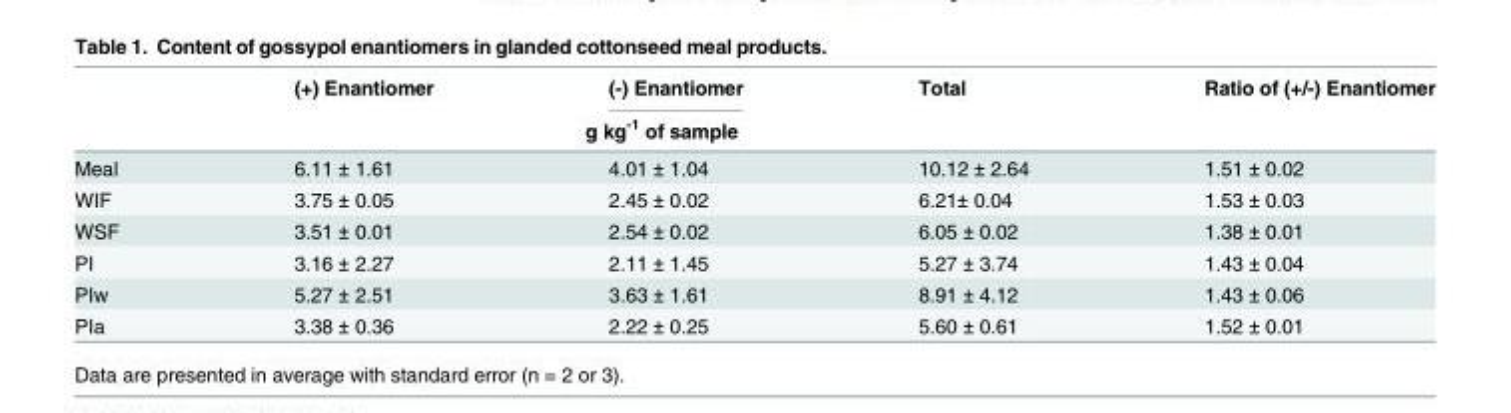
<table><thead><tr><td rowspan="2"></td><td>(+) Enantiomer</td><td>(-) Enantiomer</td><td>Total</td><td rowspan="2">Ratio of (+/-) Enantiomer</td></tr><tr><td colspan="3">g kg<sup>-1</sup> of sample</td></tr></thead><tbody><tr><td>Meal</td><td>6.11 ± 1.61</td><td>4.01 ± 1.04</td><td>10.12 ± 2.64</td><td>1.51 ± 0.02</td></tr><tr><td>WIF</td><td>3.75 ± 0.05</td><td>2.45 ± 0.02</td><td>6.21± 0.04</td><td>1.53 ± 0.03</td></tr><tr><td>WSF</td><td>3.51 ± 0.01</td><td>2.54 ± 0.02</td><td>6.05 ± 0.02</td><td>1.38 ± 0.01</td></tr><tr><td>PI</td><td>3.16 ± 2.27</td><td>2.11 ± 1.45</td><td>5.27 ± 3.74</td><td>1.43 ± 0.04</td></tr><tr><td>PIw</td><td>5.27 ± 2.51</td><td>3.63 ± 1.61</td><td>8.91 ± 4.12</td><td>1.43 ± 0.06</td></tr><tr><td>PIa</td><td>3.38 ± 0.36</td><td>2.22 ± 0.25</td><td>5.60 ± 0.61</td><td>1.52 ± 0.01</td></tr></tbody></table>